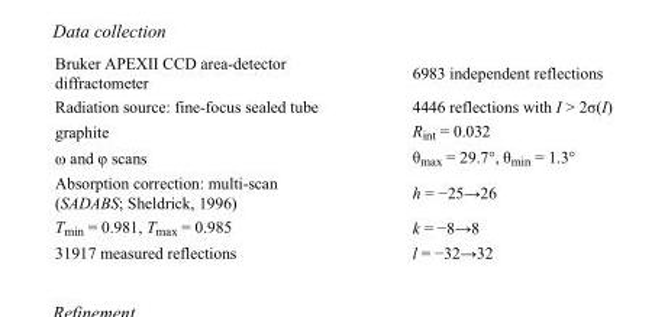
<table><tbody><tr><td>Bruker APEXII CCD area-detector diffractometer</td><td>6983 independent reflections</td></tr><tr><td>Radiation source: fine-focus sealed tube</td><td>4446 reflections with I &gt; 2σ(I)</td></tr><tr><td>graphite</td><td>R<sub>int</sub> = 0.032</td></tr><tr><td>ω and φ scans</td><td>θ<sub>max</sub> = 29.7°, θ<sub>min</sub> = 1.3°</td></tr><tr><td>Absorption correction: multi-scan (SADABS; Sheldrick, 1996)</td><td>h = −25→26</td></tr><tr><td>T<sub>min</sub> = 0.981, T<sub>max</sub> = 0.985</td><td>k = −8→8</td></tr><tr><td>31917 measured reflections</td><td>l = −32→32</td></tr></tbody></table>